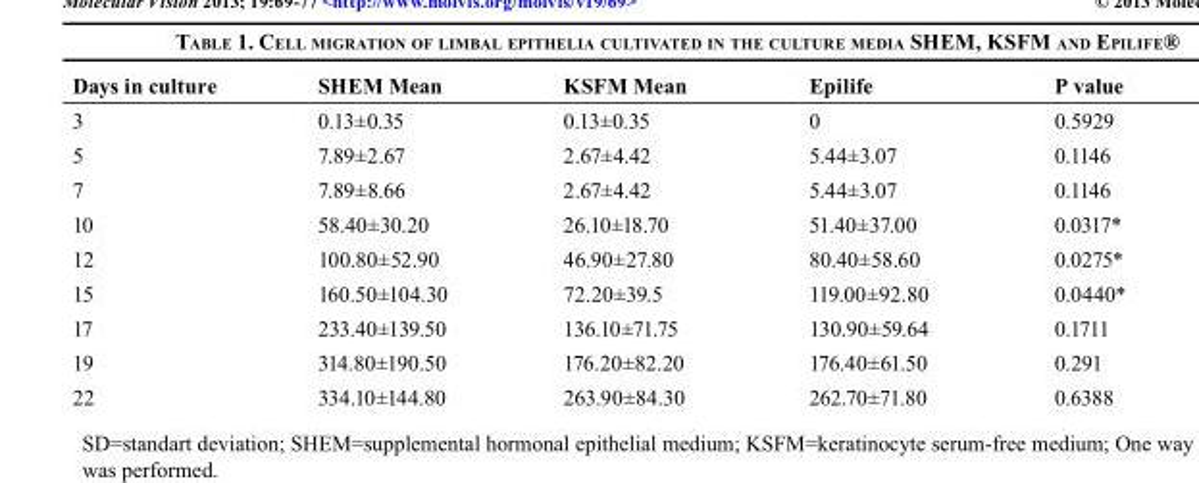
<table><thead><tr><td>Days in culture</td><td>SHEM Mean</td><td>KSFM Mean</td><td>Epilife</td><td>P value</td></tr></thead><tbody><tr><td>3</td><td>0.13±0.35</td><td>0.13±0.35</td><td>0</td><td>0.5929</td></tr><tr><td>5</td><td>7.89±2.67</td><td>2.67±4.42</td><td>5.44±3.07</td><td>0.1146</td></tr><tr><td>7</td><td>7.89±8.66</td><td>2.67±4.42</td><td>5.44±3.07</td><td>0.1146</td></tr><tr><td>10</td><td>58.40±30.20</td><td>26.10±18.70</td><td>51.40±37.00</td><td>0.0317*</td></tr><tr><td>12</td><td>100.80±52.90</td><td>46.90±27.80</td><td>80.40±58.60</td><td>0.0275*</td></tr><tr><td>15</td><td>160.50±104.30</td><td>72.20±39.5</td><td>119.00±92.80</td><td>0.0440*</td></tr><tr><td>17</td><td>233.40±139.50</td><td>136.10±71.75</td><td>130.90±59.64</td><td>0.1711</td></tr><tr><td>19</td><td>314.80±190.50</td><td>176.20±82.20</td><td>176.40±61.50</td><td>0.291</td></tr><tr><td>22</td><td>334.10±144.80</td><td>263.90±84.30</td><td>262.70±71.80</td><td>0.6388</td></tr></tbody></table>